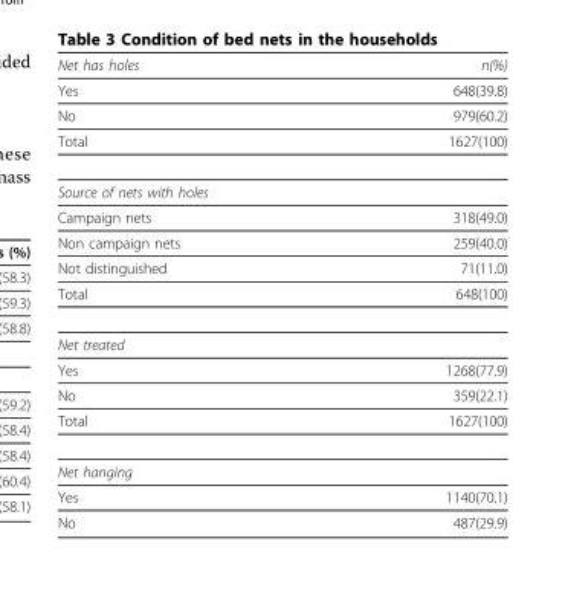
<table><thead><tr><td>Net has holes</td><td>n(%)</td></tr></thead><tbody><tr><td>Yes</td><td>648(39.8)</td></tr><tr><td>No</td><td>979(60.2)</td></tr><tr><td>Total</td><td>1627(100)</td></tr><tr><td colspan="2">Source of nets with holes</td></tr><tr><td>Campaign nets</td><td>318(49.0)</td></tr><tr><td>Non campaign nets</td><td>259(40.0)</td></tr><tr><td>Not distinguished</td><td>71(11.0)</td></tr><tr><td>Total</td><td>648(100)</td></tr><tr><td colspan="2">Net treated</td></tr><tr><td>Yes</td><td>1268(77.9)</td></tr><tr><td>No</td><td>359(22.1)</td></tr><tr><td>Total</td><td>1627(100)</td></tr><tr><td colspan="2">Net hanging</td></tr><tr><td>Yes</td><td>1140(70.1)</td></tr><tr><td>No</td><td>487(29.9)</td></tr></tbody></table>